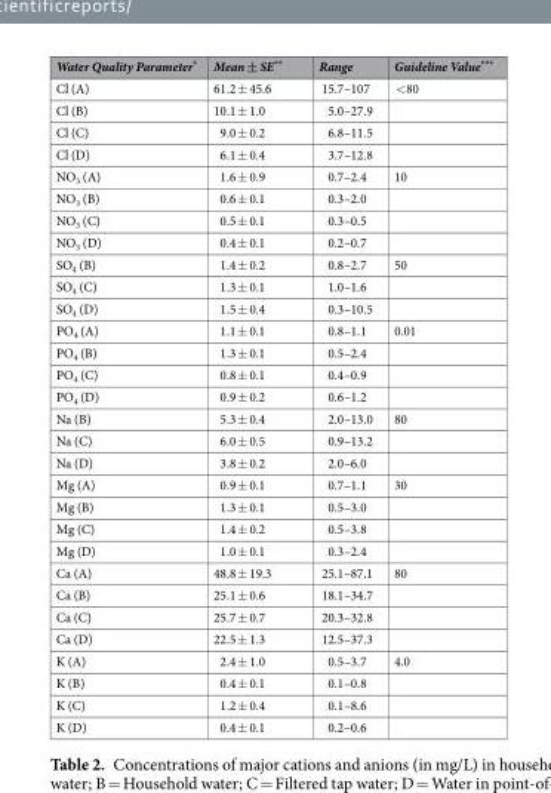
<table><thead><tr><td>Water Quality Parameter*</td><td>Mean ± SE**</td><td>Range</td><td>Guideline Value***</td></tr></thead><tbody><tr><td>Cl (A)</td><td>61.2 ± 45.6</td><td>15.7–107</td><td>&lt;80</td></tr><tr><td>Cl (B)</td><td>10.1 ± 1.0</td><td>5.0–27.9</td><td></td></tr><tr><td>Cl (C)</td><td>9.0 ± 0.2</td><td>6.8–11.5</td><td></td></tr><tr><td>Cl (D)</td><td>6.1 ± 0.4</td><td>3.7–12.8</td><td></td></tr><tr><td>NO<sub>3</sub> (A)</td><td>1.6 ± 0.9</td><td>0.7–2.4</td><td>10</td></tr><tr><td>NO<sub>3</sub> (B)</td><td>0.6 ± 0.1</td><td>0.3–2.0</td><td></td></tr><tr><td>NO<sub>3</sub> (C)</td><td>0.5 ± 0.1</td><td>0.3–0.5</td><td></td></tr><tr><td>NO<sub>3</sub> (D)</td><td>0.4 ± 0.1</td><td>0.2–0.7</td><td></td></tr><tr><td>SO<sub>4</sub> (B)</td><td>1.4 ± 0.2</td><td>0.8–2.7</td><td>50</td></tr><tr><td>SO<sub>4</sub> (C)</td><td>1.3 ± 0.1</td><td>1.0–1.6</td><td></td></tr><tr><td>SO<sub>4</sub> (D)</td><td>1.5 ± 0.4</td><td>0.3–10.5</td><td></td></tr><tr><td>PO<sub>4</sub> (A)</td><td>1.1 ± 0.1</td><td>0.8–1.1</td><td>0.01</td></tr><tr><td>PO<sub>4</sub> (B)</td><td>1.3 ± 0.1</td><td>0.5–2.4</td><td></td></tr><tr><td>PO<sub>4</sub> (C)</td><td>0.8 ± 0.1</td><td>0.4–0.9</td><td></td></tr><tr><td>PO<sub>4</sub> (D)</td><td>0.9 ± 0.2</td><td>0.6–1.2</td><td></td></tr><tr><td>Na (B)</td><td>5.3 ± 0.4</td><td>2.0–13.0</td><td>80</td></tr><tr><td>Na (C)</td><td>6.0 ± 0.5</td><td>0.9–13.2</td><td></td></tr><tr><td>Na (D)</td><td>3.8 ± 0.2</td><td>2.0–6.0</td><td></td></tr><tr><td>Mg (A)</td><td>0.9 ± 0.1</td><td>0.7–1.1</td><td>30</td></tr><tr><td>Mg (B)</td><td>1.3 ± 0.1</td><td>0.5–3.0</td><td></td></tr><tr><td>Mg (C)</td><td>1.4 ± 0.2</td><td>0.5–3.8</td><td></td></tr><tr><td>Mg (D)</td><td>1.0 ± 0.1</td><td>0.3–2.4</td><td></td></tr><tr><td>Ca (A)</td><td>48.8 ± 19.3</td><td>25.1–87.1</td><td>80</td></tr><tr><td>Ca (B)</td><td>25.1 ± 0.6</td><td>18.1–34.7</td><td></td></tr><tr><td>Ca (C)</td><td>25.7 ± 0.7</td><td>20.3–32.8</td><td></td></tr><tr><td>Ca (D)</td><td>22.5 ± 1.3</td><td>12.5–37.3</td><td></td></tr><tr><td>K (A)</td><td>2.4 ± 1.0</td><td>0.5–3.7</td><td>4.0</td></tr><tr><td>K (B)</td><td>0.4 ± 0.1</td><td>0.1–0.8</td><td></td></tr><tr><td>K (C)</td><td>1.2 ± 0.4</td><td>0.1–8.6</td><td></td></tr><tr><td>K (D)</td><td>0.4 ± 0.1</td><td>0.2–0.6</td><td></td></tr></tbody></table>